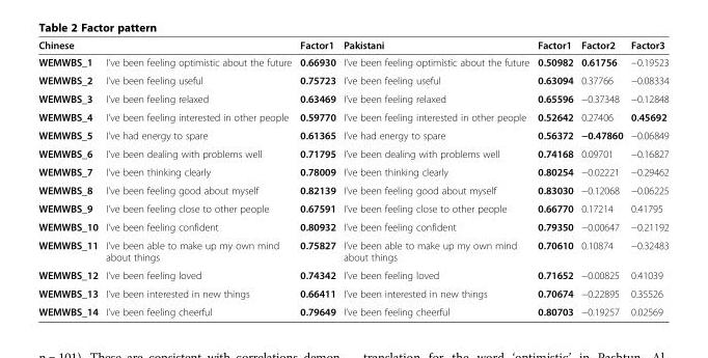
<table><thead><tr><td colspan="2">Chinese</td><td rowspan="2">Factor1 0.66930</td><td rowspan="2">Pakistani I’ve been feeling optimistic about the future</td><td rowspan="2">Factor1 0.50982</td><td rowspan="2">Factor2 0.61756</td><td rowspan="2">Factor3 −0.19523</td></tr><tr><td>WEMWBS_1</td><td>I’ve been feeling optimistic about the future</td></tr></thead><tbody><tr><td>WEMWBS_2</td><td>I’ve been feeling useful</td><td>0.75723</td><td>I’ve been feeling useful</td><td>0.63094</td><td>0.37766</td><td>−0.08334</td></tr><tr><td>WEMWBS_3</td><td>I’ve been feeling relaxed</td><td>0.63469</td><td>I’ve been feeling relaxed</td><td>0.65596</td><td>−0.37348</td><td>−0.12848</td></tr><tr><td>WEMWBS_4</td><td>I’ve been feeling interested in other people</td><td>0.59770</td><td>I’ve been feeling interested in other people</td><td>0.52642</td><td>0.27406</td><td>0.45692</td></tr><tr><td>WEMWBS_5</td><td>I’ve had energy to spare</td><td>0.61365</td><td>I’ve had energy to spare</td><td>0.56372</td><td>−0.47860</td><td>−0.06849</td></tr><tr><td>WEMWBS_6</td><td>I’ve been dealing with problems well</td><td>0.71795</td><td>I’ve been dealing with problems well</td><td>0.74168</td><td>0.09701</td><td>−0.16827</td></tr><tr><td>WEMWBS_7</td><td>I’ve been thinking clearly</td><td>0.78009</td><td>I’ve been thinking clearly</td><td>0.80254</td><td>−0.02221</td><td>−0.29462</td></tr><tr><td>WEMWBS_8</td><td>I’ve been feeling good about myself</td><td>0.82139</td><td>I’ve been feeling good about myself</td><td>0.83030</td><td>−0.12068</td><td>−0.06225</td></tr><tr><td>WEMWBS_9</td><td>I’ve been feeling close to other people</td><td>0.67591</td><td>I’ve been feeling close to other people</td><td>0.66770</td><td>0.17214</td><td>0.41795</td></tr><tr><td>WEMWBS_10</td><td>I’ve been feeling confident</td><td>0.80932</td><td>I’ve been feeling confident</td><td>0.79350</td><td>−0.00647</td><td>−0.21192</td></tr><tr><td>WEMWBS_11</td><td>I’ve been able to make up my own mind about things</td><td>0.75827</td><td>I’ve been able to make up my own mind about things</td><td>0.70610</td><td>0.10874</td><td>−0.32483</td></tr><tr><td>WEMWBS_12</td><td>I’ve been feeling loved</td><td>0.74342</td><td>I’ve been feeling loved</td><td>0.71652</td><td>−0.00825</td><td>0.41039</td></tr><tr><td>WEMWBS_13</td><td>I’ve been interested in new things</td><td>0.66411</td><td>I’ve been interested in new things</td><td>0.70674</td><td>−0.22895</td><td>0.35526</td></tr><tr><td>WEMWBS_14</td><td>I’ve been feeling cheerful</td><td>0.79649</td><td>I’ve been feeling cheerful</td><td>0.80703</td><td>−0.19257</td><td>0.02569</td></tr></tbody></table>